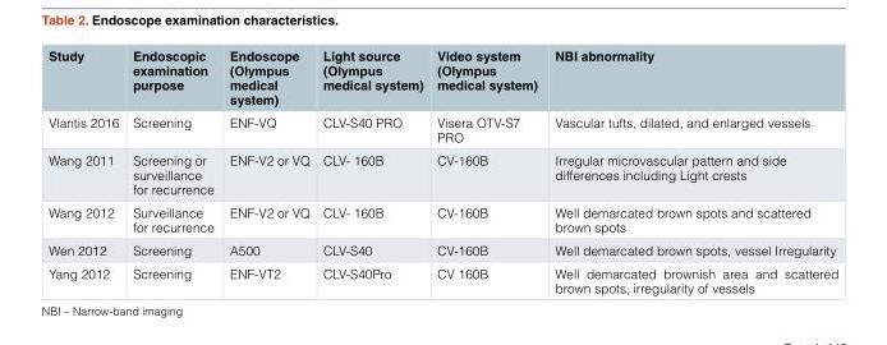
<table><thead><tr><td>Study</td><td>Endoscopic examination purpose</td><td>Endoscope (Olympus medical system)</td><td>Light source (Olympus medical system)</td><td>Video system (Olympus medical system)</td><td>NBI abnormality</td></tr></thead><tbody><tr><td>Vlantis 2016</td><td>Screening</td><td>ENF-VQ</td><td>CLV-S40 PRO</td><td>Visera OTV-S7 PRO</td><td>Vascular tufts, dilated, and enlarged vessels</td></tr><tr><td>Wang 2011</td><td>Screening or surveillance for recurrence</td><td>ENF-V2 or VQ</td><td>CLV- 160B</td><td>CV-160B</td><td>Irregular microvascular pattern and side differences including Light crests</td></tr><tr><td>Wang 2012</td><td>Surveillance for recurrence</td><td>ENF-V2 or VQ</td><td>CLV- 160B</td><td>CV-160B</td><td>Well demarcated brown spots and scattered brown spots</td></tr><tr><td>Wen 2012</td><td>Screening</td><td>A500</td><td>CLV-S40</td><td>CV-160B</td><td>Well demarcated brown spots, vessel Irregularity</td></tr><tr><td>Yang 2012</td><td>Screening</td><td>ENF-VT2</td><td>CLV-S40Pro</td><td>CV 160B</td><td>Well demarcated brownish area and scattered brown spots, irregularity of vessels</td></tr></tbody></table>